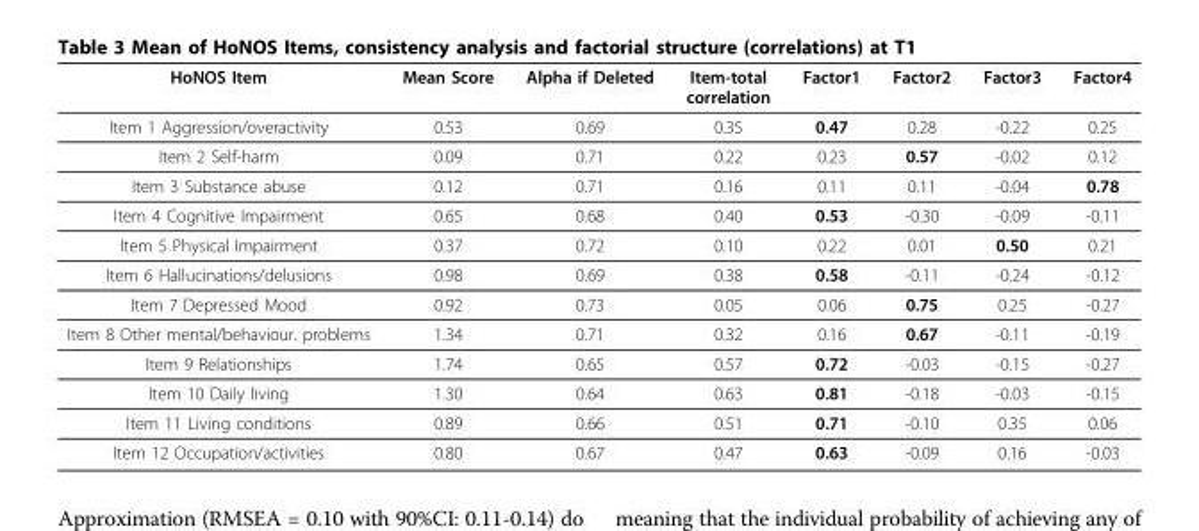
<table><thead><tr><td>HoNOS Item</td><td>Mean Score</td><td>Alpha if Deleted</td><td>Item-total correlation</td><td>Factor1</td><td>Factor2</td><td>Factor3</td><td>Factor4</td></tr></thead><tbody><tr><td>Item 1 Aggression/overactivity</td><td>0.53</td><td>0.69</td><td>0.35</td><td>0.47</td><td>0.28</td><td>-0.22</td><td>0.25</td></tr><tr><td>Item 2 Self-harm</td><td>0.09</td><td>0.71</td><td>0.22</td><td>0.23</td><td>0.57</td><td>-0.02</td><td>0.12</td></tr><tr><td>Item 3 Substance abuse</td><td>0.12</td><td>0.71</td><td>0.16</td><td>0.11</td><td>0.11</td><td>-0.04</td><td>0.78</td></tr><tr><td>Item 4 Cognitive Impairment</td><td>0.65</td><td>0.68</td><td>0.40</td><td>0.53</td><td>-0.30</td><td>-0.09</td><td>-0.11</td></tr><tr><td>Item 5 Physical Impairment</td><td>0.37</td><td>0.72</td><td>0.10</td><td>0.22</td><td>0.01</td><td>0.50</td><td>0.21</td></tr><tr><td>Item 6 Hallucinations/delusions</td><td>0.98</td><td>0.69</td><td>0.38</td><td>0.58</td><td>-0.11</td><td>-0.24</td><td>-0.12</td></tr><tr><td>Item 7 Depressed Mood</td><td>0.92</td><td>0.73</td><td>0.05</td><td>0.06</td><td>0.75</td><td>0.25</td><td>-0.27</td></tr><tr><td>Item 8 Other mental/behaviour. problems</td><td>1.34</td><td>0.71</td><td>0.32</td><td>0.16</td><td>0.67</td><td>-0.11</td><td>-0.19</td></tr><tr><td>Item 9 Relationships</td><td>1.74</td><td>0.65</td><td>0.57</td><td>0.72</td><td>-0.03</td><td>-0.15</td><td>-0.27</td></tr><tr><td>Item 10 Daily living</td><td>1.30</td><td>0.64</td><td>0.63</td><td>0.81</td><td>-0.18</td><td>-0.03</td><td>-0.15</td></tr><tr><td>Item 11 Living conditions</td><td>0.89</td><td>0.66</td><td>0.51</td><td>0.71</td><td>-0.10</td><td>0.35</td><td>0.06</td></tr><tr><td>Item 12 Occupation/activities</td><td>0.80</td><td>0.67</td><td>0.47</td><td>0.63</td><td>-0.09</td><td>0.16</td><td>-0.03</td></tr></tbody></table>